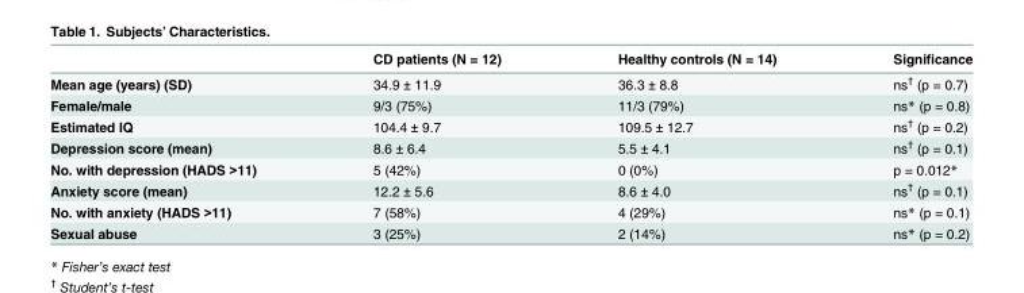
<table><thead><tr><td></td><td>CD patients (N = 12)</td><td>Healthy controls (N = 14)</td><td>Significance</td></tr></thead><tbody><tr><td>Mean age (years) (SD)</td><td>34.9 ± 11.9</td><td>36.3 ± 8.8</td><td>ns<sup>†</sup> (p = 0.7)</td></tr><tr><td>Female/male</td><td>9/3 (75%)</td><td>11/3 (79%)</td><td>ns* (p = 0.8)</td></tr><tr><td>Estimated IQ</td><td>104.4 ± 9.7</td><td>109.5 ± 12.7</td><td>ns<sup>†</sup> (p = 0.2)</td></tr><tr><td>Depression score (mean)</td><td>8.6 ± 6.4</td><td>5.5 ± 4.1</td><td>ns<sup>†</sup> (p = 0.1)</td></tr><tr><td>No. with depression (HADS &gt;11)</td><td>5 (42%)</td><td>0 (0%)</td><td>p = 0.012*</td></tr><tr><td>Anxiety score (mean)</td><td>12.2 ± 5.6</td><td>8.6 ± 4.0</td><td>ns<sup>†</sup> (p = 0.1)</td></tr><tr><td>No. with anxiety (HADS &gt;11)</td><td>7 (58%)</td><td>4 (29%)</td><td>ns* (p = 0.1)</td></tr><tr><td>Sexual abuse</td><td>3 (25%)</td><td>2 (14%)</td><td>ns* (p = 0.2)</td></tr></tbody></table>